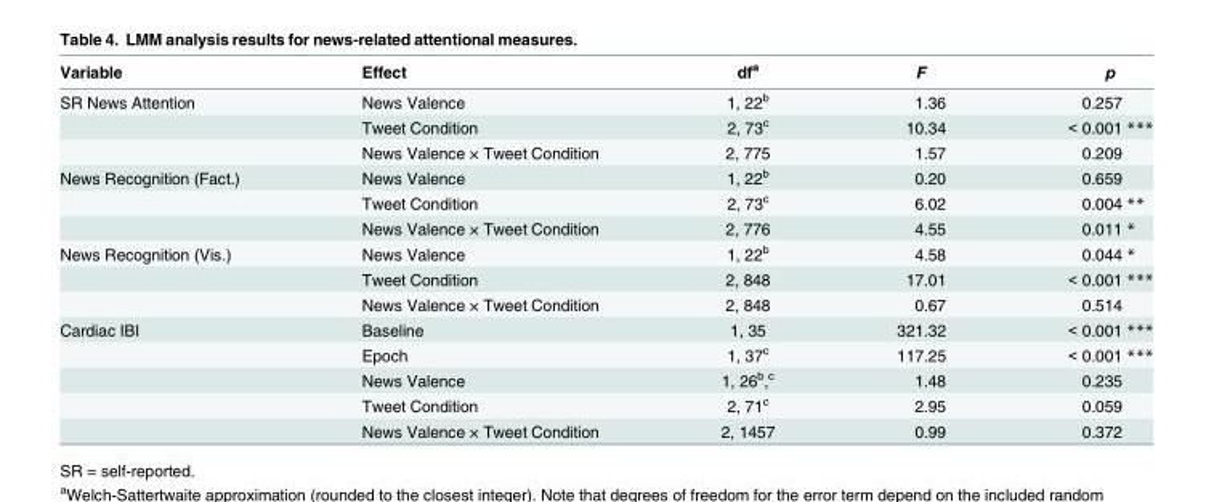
<table><thead><tr><td>Variable</td><td>Effect</td><td>df<sup>a</sup></td><td>F</td><td>p</td></tr></thead><tbody><tr><td rowspan="3">SR News Attention</td><td>News Valence</td><td>1, 22<sup>b</sup></td><td>1.36</td><td>0.257</td></tr><tr><td>Tweet Condition</td><td>2, 73<sup>c</sup></td><td>10.34</td><td>&lt; 0.001 ***</td></tr><tr><td>News Valence × Tweet Condition</td><td>2, 775</td><td>1.57</td><td>0.209</td></tr><tr><td rowspan="3">News Recognition (Fact.)</td><td>News Valence</td><td>1, 22<sup>b</sup></td><td>0.20</td><td>0.659</td></tr><tr><td>Tweet Condition</td><td>2, 73<sup>c</sup></td><td>6.02</td><td>0.004 **</td></tr><tr><td>News Valence × Tweet Condition</td><td>2, 776</td><td>4.55</td><td>0.011 *</td></tr><tr><td rowspan="3">News Recognition (Vis.)</td><td>News Valence</td><td>1, 22<sup>b</sup></td><td>4.58</td><td>0.044 *</td></tr><tr><td>Tweet Condition</td><td>2, 848</td><td>17.01</td><td>&lt; 0.001 ***</td></tr><tr><td>News Valence × Tweet Condition</td><td>2, 848</td><td>0.67</td><td>0.514</td></tr><tr><td rowspan="5">Cardiac IBI</td><td>Baseline</td><td>1, 35</td><td>321.32</td><td>&lt; 0.001 ***</td></tr><tr><td>Epoch</td><td>1, 37<sup>c</sup></td><td>117.25</td><td>&lt; 0.001 ***</td></tr><tr><td>News Valence</td><td>1, 26<sup>b</sup>,<sup>c</sup></td><td>1.48</td><td>0.235</td></tr><tr><td>Tweet Condition</td><td>2, 71<sup>c</sup></td><td>2.95</td><td>0.059</td></tr><tr><td>News Valence × Tweet Condition</td><td>2, 1457</td><td>0.99</td><td>0.372</td></tr></tbody></table>